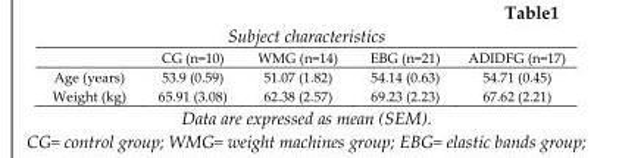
<table><thead><tr><td></td><td>CG (n=10)</td><td>WMG (n=14)</td><td>EBG (n=21)</td><td>ADIDFG (n=17)</td></tr></thead><tbody><tr><td>Age (years)</td><td>53.9 (0.59)</td><td>51.07 (1.82)</td><td>54.14 (0.63)</td><td>54.71 (0.45)</td></tr><tr><td>Weight (kg)</td><td>65.91 (3.08)</td><td>62.38 (2.57)</td><td>69.23 (2.23)</td><td>67.62 (2.21)</td></tr></tbody></table>